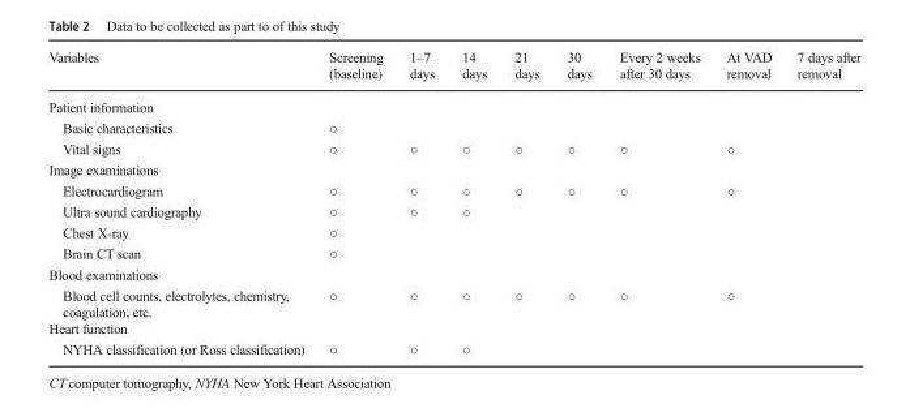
<table><thead><tr><td>Variables</td><td>Screening (baseline)</td><td>1–7 days</td><td>14 days</td><td>21 days</td><td>30 days</td><td>Every 2 weeks after 30 days</td><td>At VAD removal</td><td>7 days after removal</td></tr></thead><tbody><tr><td colspan="9">Patient information</td></tr><tr><td>Basic characteristics</td><td>○</td><td></td><td></td><td></td><td></td><td></td><td></td><td></td></tr><tr><td>Vital signs</td><td>○</td><td>○</td><td>○</td><td>○</td><td>○</td><td>○</td><td>○</td><td></td></tr><tr><td colspan="9">Image examinations</td></tr><tr><td>Electrocardiogram</td><td>○</td><td>○</td><td>○</td><td>○</td><td>○</td><td>○</td><td>○</td><td></td></tr><tr><td>Ultra sound cardiography</td><td>○</td><td>○</td><td>○</td><td></td><td></td><td></td><td></td><td></td></tr><tr><td>Chest X-ray</td><td>○</td><td></td><td></td><td></td><td></td><td></td><td></td><td></td></tr><tr><td>Brain CT scan</td><td>○</td><td></td><td></td><td></td><td></td><td></td><td></td><td></td></tr><tr><td colspan="9">Blood examinations</td></tr><tr><td>Blood cell counts, electrolytes, chemistry, coagulation, etc.</td><td>○</td><td>○</td><td>○</td><td>○</td><td>○</td><td>○</td><td>○</td><td></td></tr><tr><td colspan="9">Heart function</td></tr><tr><td>NYHA classification (or Ross classification)</td><td>○</td><td>○</td><td>○</td><td></td><td></td><td></td><td></td><td></td></tr></tbody></table>